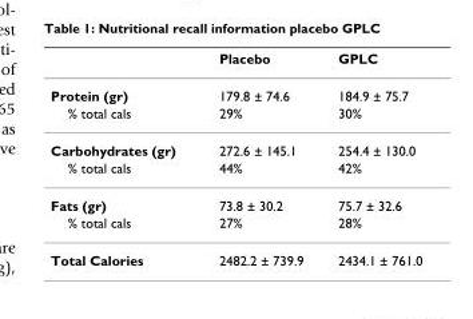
<table><thead><tr><td></td><td>Placebo</td><td>GPLC</td></tr></thead><tbody><tr><td>Protein (gr)</td><td>179.8 ± 74.6</td><td>184.9 ± 75.7</td></tr><tr><td>% total cals</td><td>29%</td><td>30%</td></tr><tr><td>Carbohydrates (gr)</td><td>272.6 ± 145.1</td><td>254.4 ± 130.0</td></tr><tr><td>% total cals</td><td>44%</td><td>42%</td></tr><tr><td>Fats (gr)</td><td>73.8 ± 30.2</td><td>75.7 ± 32.6</td></tr><tr><td>% total cals</td><td>27%</td><td>28%</td></tr><tr><td>Total Calories</td><td>2482.2 ± 739.9</td><td>2434.1 ± 761.0</td></tr></tbody></table>